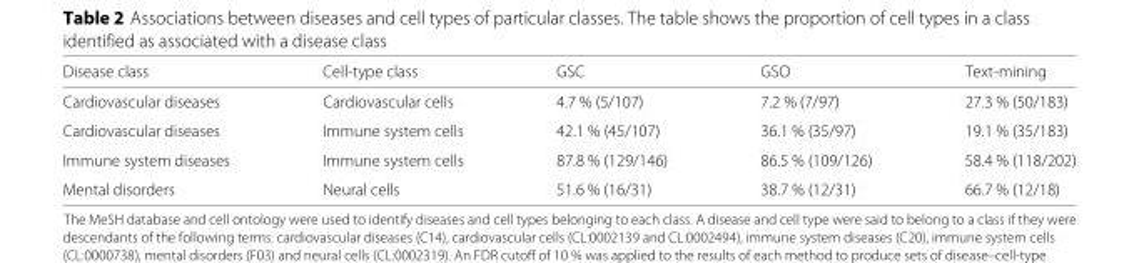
<table><thead><tr><td>Disease class</td><td>Cell-type class</td><td>GSC</td><td>GSO</td><td>Text-mining</td></tr></thead><tbody><tr><td>Cardiovascular diseases</td><td>Cardiovascular cells</td><td>4.7 % (5/107)</td><td>7.2 % (7/97)</td><td>27.3 % (50/183)</td></tr><tr><td>Cardiovascular diseases</td><td>Immune system cells</td><td>42.1 % (45/107)</td><td>36.1 % (35/97)</td><td>19.1 % (35/183)</td></tr><tr><td>Immune system diseases</td><td>Immune system cells</td><td>87.8 % (129/146)</td><td>86.5 % (109/126)</td><td>58.4 % (118/202)</td></tr><tr><td>Mental disorders</td><td>Neural cells</td><td>51.6 % (16/31)</td><td>38.7 % (12/31)</td><td>66.7 % (12/18)</td></tr></tbody></table>